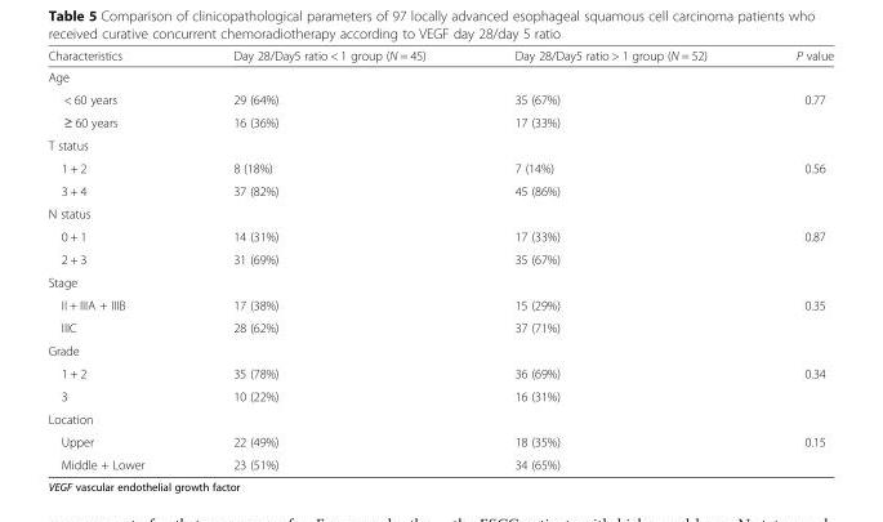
<table><thead><tr><td>Characteristics</td><td>Day 28/Day5 ratio &lt; 1 group (N = 45)</td><td>Day 28/Day5 ratio &gt; 1 group (N = 52)</td><td>P value</td></tr></thead><tbody><tr><td colspan="4">Age</td></tr><tr><td>&lt; 60 years</td><td>29 (64%)</td><td>35 (67%)</td><td>0.77</td></tr><tr><td>≥ 60 years</td><td>16 (36%)</td><td>17 (33%)</td><td></td></tr><tr><td colspan="4">T status</td></tr><tr><td>1 + 2</td><td>8 (18%)</td><td>7 (14%)</td><td>0.56</td></tr><tr><td>3 + 4</td><td>37 (82%)</td><td>45 (86%)</td><td></td></tr><tr><td colspan="4">N status</td></tr><tr><td>0 + 1</td><td>14 (31%)</td><td>17 (33%)</td><td>0.87</td></tr><tr><td>2 + 3</td><td>31 (69%)</td><td>35 (67%)</td><td></td></tr><tr><td colspan="4">Stage</td></tr><tr><td>II + IIIA + IIIB</td><td>17 (38%)</td><td>15 (29%)</td><td>0.35</td></tr><tr><td>IIIC</td><td>28 (62%)</td><td>37 (71%)</td><td></td></tr><tr><td colspan="4">Grade</td></tr><tr><td>1 + 2</td><td>35 (78%)</td><td>36 (69%)</td><td>0.34</td></tr><tr><td>3</td><td>10 (22%)</td><td>16 (31%)</td><td></td></tr><tr><td colspan="4">Location</td></tr><tr><td>Upper</td><td>22 (49%)</td><td>18 (35%)</td><td>0.15</td></tr><tr><td>Middle + Lower</td><td>23 (51%)</td><td>34 (65%)</td><td></td></tr></tbody></table>